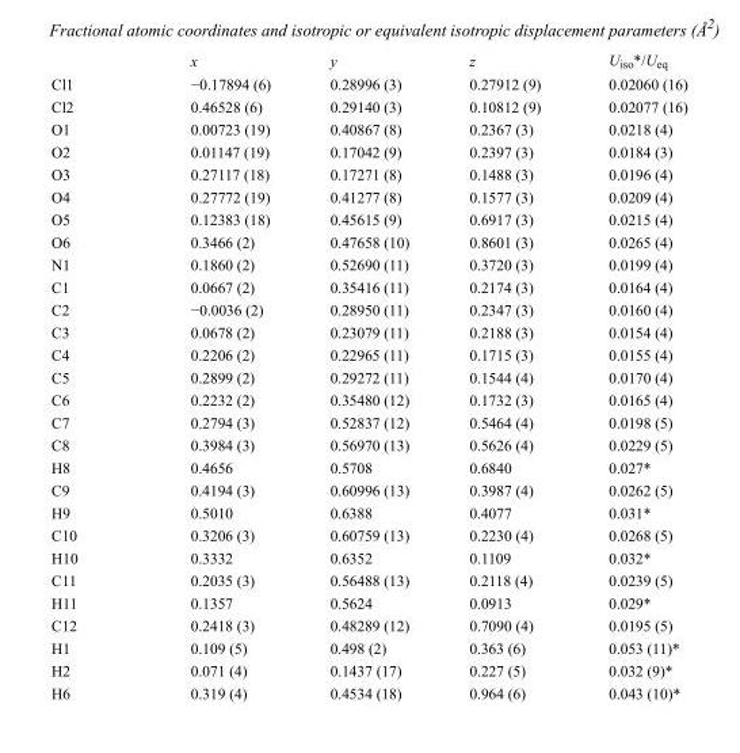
<table><thead><tr><td></td><td>x</td><td>y</td><td>z</td><td>U<sub>iso</sub>*/U<sub>eq</sub></td></tr></thead><tbody><tr><td>Cl1</td><td>−0.17894 (6)</td><td>0.28996 (3)</td><td>0.27912 (9)</td><td>0.02060 (16)</td></tr><tr><td>Cl2</td><td>0.46528 (6)</td><td>0.29140 (3)</td><td>0.10812 (9)</td><td>0.02077 (16)</td></tr><tr><td>O1</td><td>0.00723 (19)</td><td>0.40867 (8)</td><td>0.2367 (3)</td><td>0.0218 (4)</td></tr><tr><td>O2</td><td>0.01147 (19)</td><td>0.17042 (9)</td><td>0.2397 (3)</td><td>0.0184 (3)</td></tr><tr><td>O3</td><td>0.27117 (18)</td><td>0.17271 (8)</td><td>0.1488 (3)</td><td>0.0196 (4)</td></tr><tr><td>O4</td><td>0.27772 (19)</td><td>0.41277 (8)</td><td>0.1577 (3)</td><td>0.0209 (4)</td></tr><tr><td>O5</td><td>0.12383 (18)</td><td>0.45615 (9)</td><td>0.6917 (3)</td><td>0.0215 (4)</td></tr><tr><td>O6</td><td>0.3466 (2)</td><td>0.47658 (10)</td><td>0.8601 (3)</td><td>0.0265 (4)</td></tr><tr><td>N1</td><td>0.1860 (2)</td><td>0.52690 (11)</td><td>0.3720 (3)</td><td>0.0199 (4)</td></tr><tr><td>C1</td><td>0.0667 (2)</td><td>0.35416 (11)</td><td>0.2174 (3)</td><td>0.0164 (4)</td></tr><tr><td>C2</td><td>−0.0036 (2)</td><td>0.28950 (11)</td><td>0.2347 (3)</td><td>0.0160 (4)</td></tr><tr><td>C3</td><td>0.0678 (2)</td><td>0.23079 (11)</td><td>0.2188 (3)</td><td>0.0154 (4)</td></tr><tr><td>C4</td><td>0.2206 (2)</td><td>0.22965 (11)</td><td>0.1715 (3)</td><td>0.0155 (4)</td></tr><tr><td>C5</td><td>0.2899 (2)</td><td>0.29272 (11)</td><td>0.1544 (4)</td><td>0.0170 (4)</td></tr><tr><td>C6</td><td>0.2232 (2)</td><td>0.35480 (12)</td><td>0.1732 (3)</td><td>0.0165 (4)</td></tr><tr><td>C7</td><td>0.2794 (3)</td><td>0.52837 (12)</td><td>0.5464 (4)</td><td>0.0198 (5)</td></tr><tr><td>C8</td><td>0.3984 (3)</td><td>0.56970 (13)</td><td>0.5626 (4)</td><td>0.0229 (5)</td></tr><tr><td>H8</td><td>0.4656</td><td>0.5708</td><td>0.6840</td><td>0.027*</td></tr><tr><td>C9</td><td>0.4194 (3)</td><td>0.60996 (13)</td><td>0.3987 (4)</td><td>0.0262 (5)</td></tr><tr><td>H9</td><td>0.5010</td><td>0.6388</td><td>0.4077</td><td>0.031*</td></tr><tr><td>C10</td><td>0.3206 (3)</td><td>0.60759 (13)</td><td>0.2230 (4)</td><td>0.0268 (5)</td></tr><tr><td>H10</td><td>0.3332</td><td>0.6352</td><td>0.1109</td><td>0.032*</td></tr><tr><td>C11</td><td>0.2035 (3)</td><td>0.56488 (13)</td><td>0.2118 (4)</td><td>0.0239 (5)</td></tr><tr><td>H11</td><td>0.1357</td><td>0.5624</td><td>0.0913</td><td>0.029*</td></tr><tr><td>C12</td><td>0.2418 (3)</td><td>0.48289 (12)</td><td>0.7090 (4)</td><td>0.0195 (5)</td></tr><tr><td>H1</td><td>0.109 (5)</td><td>0.498 (2)</td><td>0.363 (6)</td><td>0.053 (11)*</td></tr><tr><td>H2</td><td>0.071 (4)</td><td>0.1437 (17)</td><td>0.227 (5)</td><td>0.032 (9)*</td></tr><tr><td>H6</td><td>0.319 (4)</td><td>0.4534 (18)</td><td>0.964 (6)</td><td>0.043 (10)*</td></tr></tbody></table>